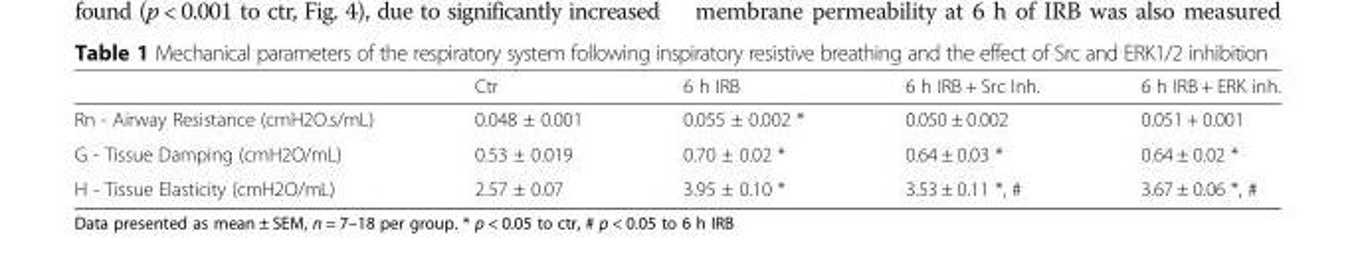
<table><thead><tr><td></td><td>Ctr</td><td>6 h IRB</td><td>6 h IRB + Src Inh.</td><td>6 h IRB + ERK inh.</td></tr></thead><tbody><tr><td>Rn - Airway Resistance (cmH2O.s/mL)</td><td>0.048 ± 0.001</td><td>0.055 ± 0.002 *</td><td>0.050 ± 0.002</td><td>0.051 + 0.001</td></tr><tr><td>G - Tissue Damping (cmH2O/mL)</td><td>0.53 ± 0.019</td><td>0.70 ± 0.02 *</td><td>0.64 ± 0.03 *</td><td>0.64 ± 0.02 *</td></tr><tr><td>H - Tissue Elasticity (cmH2O/mL)</td><td>2.57 ± 0.07</td><td>3.95 ± 0.10 *</td><td>3.53 ± 0.11 *, #</td><td>3.67 ± 0.06 *, #</td></tr></tbody></table>